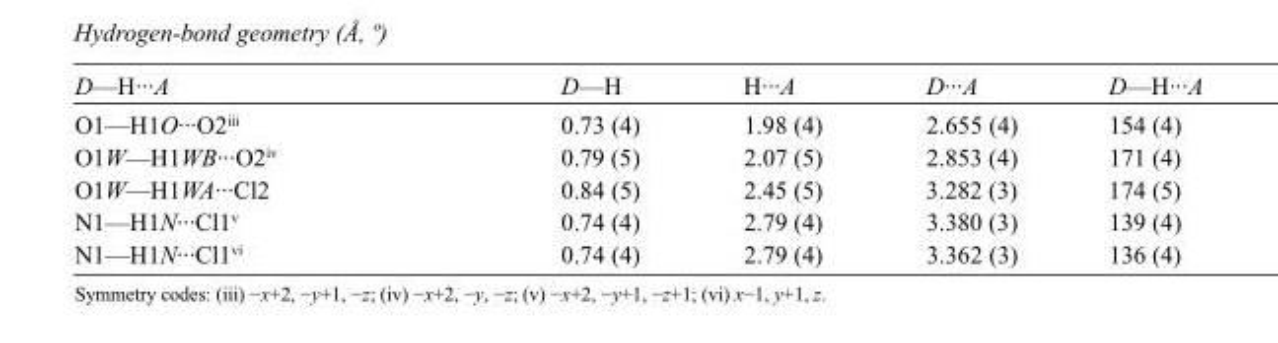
<table><tbody><tr><td>D—H···A</td><td>D—H</td><td>H···A</td><td>D···A</td><td>D—H···A</td></tr><tr><td>O1—H1O···O2<sup>iii</sup></td><td>0.73 (4)</td><td>1.98 (4)</td><td>2.655 (4)</td><td>154 (4)</td></tr><tr><td>O1W—H1WB···O2<sup>iv</sup></td><td>0.79 (5)</td><td>2.07 (5)</td><td>2.853 (4)</td><td>171 (4)</td></tr><tr><td>O1W—H1WA···Cl2</td><td>0.84 (5)</td><td>2.45 (5)</td><td>3.282 (3)</td><td>174 (5)</td></tr><tr><td>N1—H1N···Cl1<sup>v</sup></td><td>0.74 (4)</td><td>2.79 (4)</td><td>3.380 (3)</td><td>139 (4)</td></tr><tr><td>N1—H1N···Cl1<sup>vi</sup></td><td>0.74 (4)</td><td>2.79 (4)</td><td>3.362 (3)</td><td>136 (4)</td></tr></tbody></table>